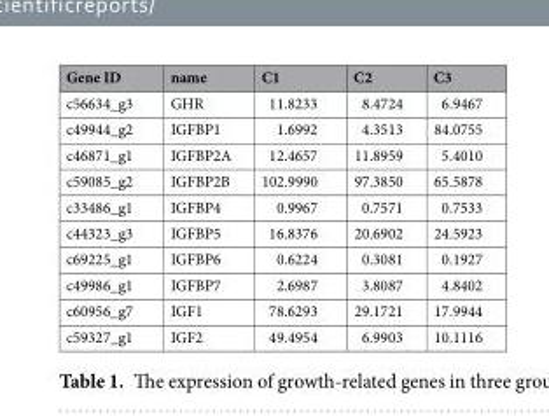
<table><thead><tr><td>Gene ID</td><td>name</td><td>C1</td><td>C2</td><td>C3</td></tr></thead><tbody><tr><td>c56634_g3</td><td>GHR</td><td>11.8233</td><td>8.4724</td><td>6.9467</td></tr><tr><td>c49944_g2</td><td>IGFBP1</td><td>1.6992</td><td>4.3513</td><td>84.0755</td></tr><tr><td>c46871_g1</td><td>IGFBP2A</td><td>12.4657</td><td>11.8959</td><td>5.4010</td></tr><tr><td>c59085_g2</td><td>IGFBP2B</td><td>102.9990</td><td>97.3850</td><td>65.5878</td></tr><tr><td>c33486_g1</td><td>IGFBP4</td><td>0.9967</td><td>0.7571</td><td>0.7533</td></tr><tr><td>c44323_g3</td><td>IGFBP5</td><td>16.8376</td><td>20.6902</td><td>24.5923</td></tr><tr><td>c69225_g1</td><td>IGFBP6</td><td>0.6224</td><td>0.3081</td><td>0.1927</td></tr><tr><td>c49986_g1</td><td>IGFBP7</td><td>2.6987</td><td>3.8087</td><td>4.8402</td></tr><tr><td>c60956_g7</td><td>IGF1</td><td>78.6293</td><td>29.1721</td><td>17.9944</td></tr><tr><td>c59327_g1</td><td>IGF2</td><td>49.4954</td><td>6.9903</td><td>10.1116</td></tr></tbody></table>